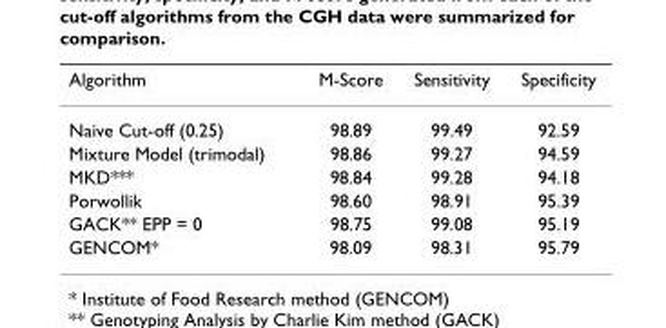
<table><thead><tr><td>Algorithm</td><td>M-Score</td><td>Sensitivity</td><td>Specificity</td></tr></thead><tbody><tr><td>Naive Cut-off (0.25)</td><td>98.89</td><td>99.49</td><td>92.59</td></tr><tr><td>Mixture Model (trimodal)</td><td>98.86</td><td>99.27</td><td>94.59</td></tr><tr><td>MKD***</td><td>98.84</td><td>99.28</td><td>94.18</td></tr><tr><td>Porwollik</td><td>98.60</td><td>98.91</td><td>95.39</td></tr><tr><td>GACK** EPP = 0</td><td>98.75</td><td>99.08</td><td>95.19</td></tr><tr><td>GENCOM*</td><td>98.09</td><td>98.31</td><td>95.79</td></tr></tbody></table>